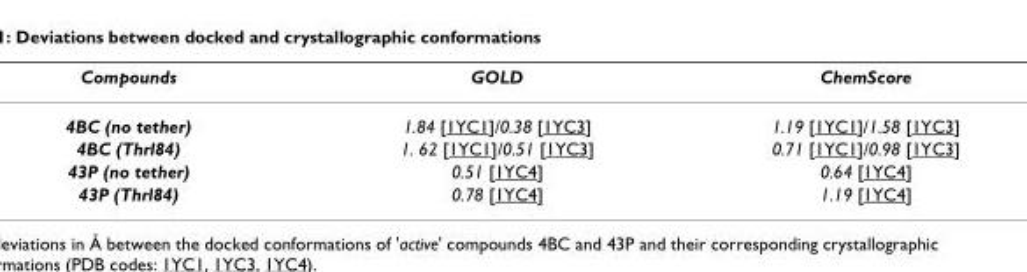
<table><thead><tr><td>Compounds</td><td>GOLD</td><td>ChemScore</td></tr></thead><tbody><tr><td>4BC (no tether)</td><td>1.84 [1YC1]/0.38 [1YC3]</td><td>1.19 [1YC1]/1.58 [1YC3]</td></tr><tr><td>4BC (Thrl84)</td><td>1. 62 [1YC1]/0.51 [1YC3]</td><td>0.71 [1YC1]/0.98 [1YC3]</td></tr><tr><td>43P (no tether)</td><td>0.51 [1YC4]</td><td>0.64 [1YC4]</td></tr><tr><td>43P (Thrl84)</td><td>0.78 [1YC4]</td><td>1.19 [1YC4]</td></tr></tbody></table>